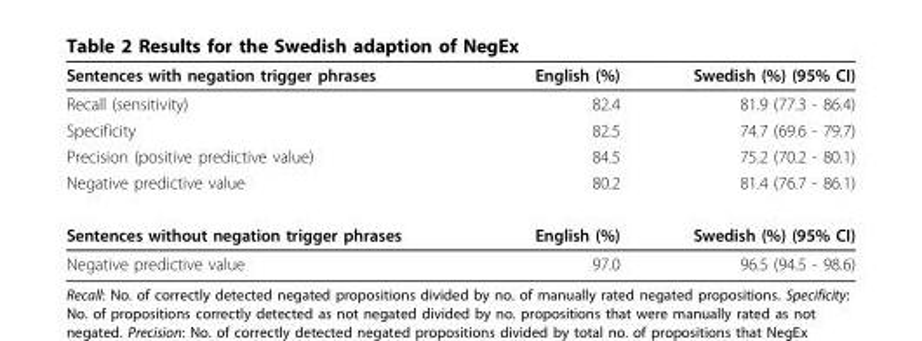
<table><thead><tr><td>Sentences with negation trigger phrases</td><td>English (%)</td><td>Swedish (%) (95% CI)</td></tr></thead><tbody><tr><td>Recall (sensitivity)</td><td>82.4</td><td>81.9 (77.3 - 86.4)</td></tr><tr><td>Specificity</td><td>82.5</td><td>74.7 (69.6 - 79.7)</td></tr><tr><td>Precision (positive predictive value)</td><td>84.5</td><td>75.2 (70.2 - 80.1)</td></tr><tr><td>Negative predictive value</td><td>80.2</td><td>81.4 (76.7 - 86.1)</td></tr><tr><td>Sentences without negation trigger phrases</td><td>English (%)</td><td>Swedish (%) (95% CI)</td></tr><tr><td>Negative predictive value</td><td>97.0</td><td>96.5 (94.5 - 98.6)</td></tr></tbody></table>